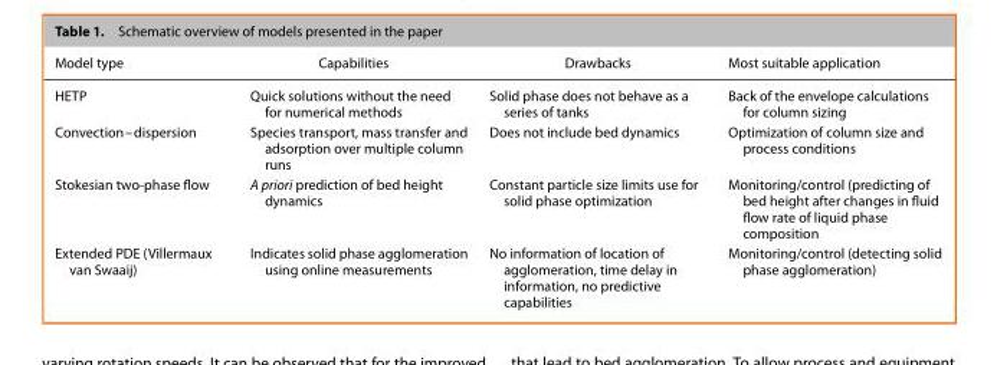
<table><thead><tr><td>Model type</td><td>Capabilities</td><td>Drawbacks</td><td>Most suitable application</td></tr></thead><tbody><tr><td>HETP</td><td>Quick solutions without the need for numerical methods</td><td>Solid phase does not behave as a series of tanks</td><td>Back of the envelope calculations for column sizing</td></tr><tr><td>Convection–dispersion</td><td>Species transport, mass transfer and adsorption over multiple column runs</td><td>Does not include bed dynamics</td><td>Optimization of column size and process conditions</td></tr><tr><td>Stokesian two-phase flow</td><td>A priori prediction of bed height dynamics</td><td>Constant particle size limits use for solid phase optimization</td><td>Monitoring/control (predicting of bed height after changes in fluid flow rate of liquid phase composition</td></tr><tr><td>Extended PDE (Villermaux van Swaaij)</td><td>Indicates solid phase agglomeration using online measurements</td><td>No information of location of agglomeration, time delay in information, no predictive capabilities</td><td>Monitoring/control (detecting solid phase agglomeration)</td></tr></tbody></table>